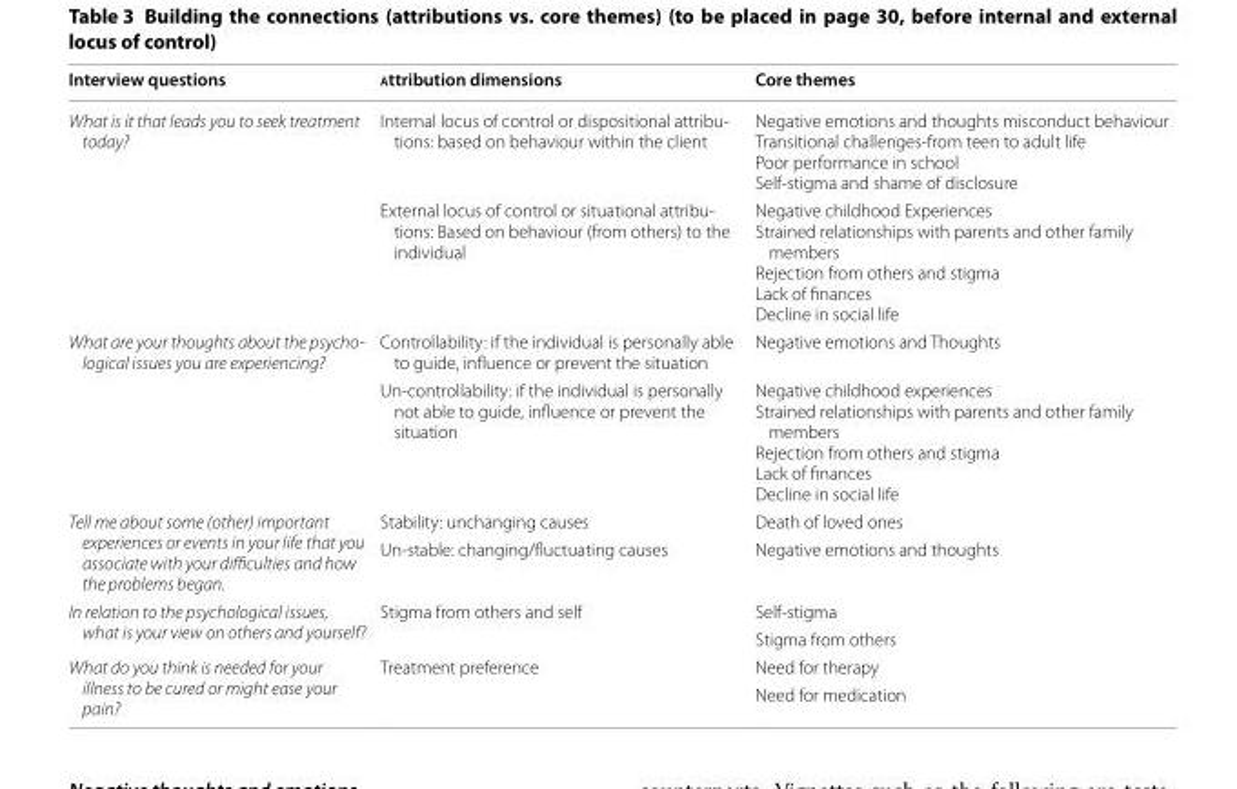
<table><thead><tr><td>Interview questions</td><td>attribution dimensions</td><td>Core themes</td></tr></thead><tbody><tr><td rowspan="2">What is it that leads you to seek treatment today?</td><td>Internal locus of control or dispositional attribu- tions: based on behaviour within the client</td><td>Negative emotions and thoughts misconduct behaviour Transitional challenges-from teen to adult life Poor performance in school Self-stigma and shame of disclosure</td></tr><tr><td>External locus of control or situational attribu- tions: Based on behaviour (from others) to the individual</td><td>Negative childhood Experiences Strained relationships with parents and other family members Rejection from others and stigma Lack of finances Decline in social life</td></tr><tr><td rowspan="2">What are your thoughts about the psycho- logical issues you are experiencing?</td><td>Controllability: if the individual is personally able to guide, influence or prevent the situation</td><td>Negative emotions and Thoughts</td></tr><tr><td>Un-controllability: if the individual is personally not able to guide, influence or prevent the situation</td><td>Negative childhood experiences Strained relationships with parents and other family members Rejection from others and stigma Lack of finances Decline in social life</td></tr><tr><td rowspan="2">Tell me about some (other) important experiences or events in your life that you associate with your difficulties and how the problems began.</td><td>Stability: unchanging causes</td><td>Death of loved ones</td></tr><tr><td>Un-stable: changing/fluctuating causes</td><td>Negative emotions and thoughts</td></tr><tr><td rowspan="2">In relation to the psychological issues, what is your view on others and yourself?</td><td rowspan="2">Stigma from others and self</td><td>Self-stigma</td></tr><tr><td>Stigma from others</td></tr><tr><td rowspan="2">What do you think is needed for your illness to be cured or might ease your pain?</td><td rowspan="2">Treatment preference</td><td>Need for therapy</td></tr><tr><td>Need for medication</td></tr></tbody></table>